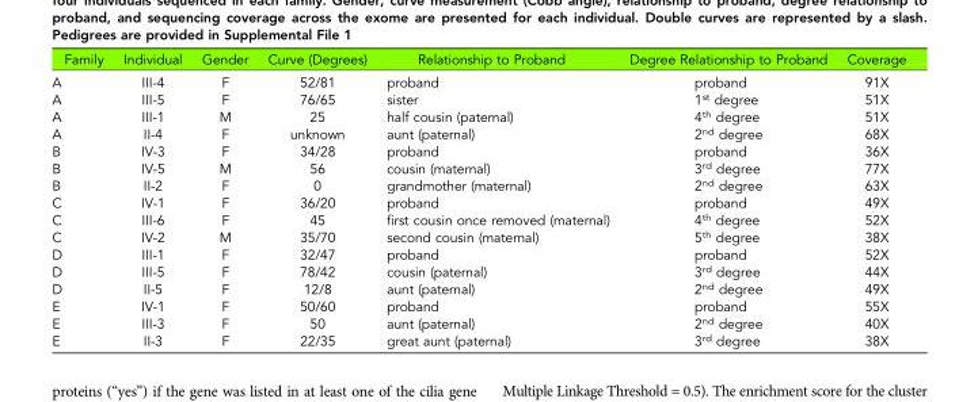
<table><thead><tr><td>Family</td><td>Individual</td><td>Gender</td><td>Curve (Degrees)</td><td>Relationship to Proband</td><td>Degree Relationship to Proband</td><td>Coverage</td></tr></thead><tbody><tr><td>A</td><td>III-4</td><td>F</td><td>52/81</td><td>proband</td><td>proband</td><td>91X</td></tr><tr><td>A</td><td>III-5</td><td>F</td><td>76/65</td><td>sister</td><td>1<sup>st</sup> degree</td><td>51X</td></tr><tr><td>A</td><td>III-1</td><td>M</td><td>25</td><td>half cousin (paternal)</td><td>4<sup>th</sup> degree</td><td>51X</td></tr><tr><td>A</td><td>II-4</td><td>F</td><td>unknown</td><td>aunt (paternal)</td><td>2<sup>nd</sup> degree</td><td>68X</td></tr><tr><td>B</td><td>IV-3</td><td>F</td><td>34/28</td><td>proband</td><td>proband</td><td>36X</td></tr><tr><td>B</td><td>IV-5</td><td>M</td><td>56</td><td>cousin (maternal)</td><td>3<sup>rd</sup> degree</td><td>77X</td></tr><tr><td>B</td><td>II-2</td><td>F</td><td>0</td><td>grandmother (maternal)</td><td>2<sup>nd</sup> degree</td><td>63X</td></tr><tr><td>C</td><td>IV-1</td><td>F</td><td>36/20</td><td>proband</td><td>proband</td><td>49X</td></tr><tr><td>C</td><td>III-6</td><td>F</td><td>45</td><td>first cousin once removed (maternal)</td><td>4<sup>th</sup> degree</td><td>52X</td></tr><tr><td>C</td><td>IV-2</td><td>M</td><td>35/70</td><td>second cousin (maternal)</td><td>5<sup>th</sup> degree</td><td>38X</td></tr><tr><td>D</td><td>III-1</td><td>F</td><td>32/47</td><td>proband</td><td>proband</td><td>52X</td></tr><tr><td>D</td><td>III-5</td><td>F</td><td>78/42</td><td>cousin (paternal)</td><td>3<sup>rd</sup> degree</td><td>44X</td></tr><tr><td>D</td><td>II-5</td><td>F</td><td>12/8</td><td>aunt (paternal)</td><td>2<sup>nd</sup> degree</td><td>49X</td></tr><tr><td>E</td><td>IV-1</td><td>F</td><td>50/60</td><td>proband</td><td>proband</td><td>55X</td></tr><tr><td>E</td><td>III-3</td><td>F</td><td>50</td><td>aunt (paternal)</td><td>2<sup>nd</sup> degree</td><td>40X</td></tr><tr><td>E</td><td>II-3</td><td>F</td><td>22/35</td><td>great aunt (paternal)</td><td>3<sup>rd</sup> degree</td><td>38X</td></tr></tbody></table>